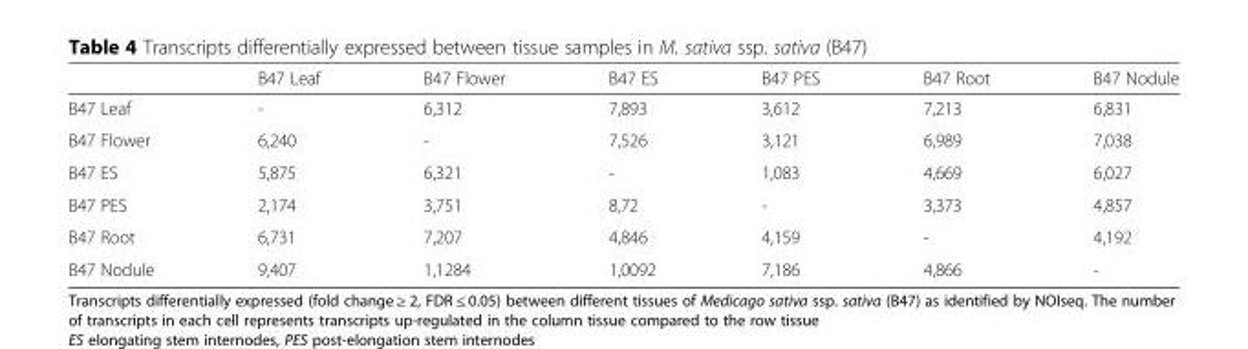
<table><thead><tr><td></td><td>B47 Leaf</td><td>B47 Flower</td><td>B47 ES</td><td>B47 PES</td><td>B47 Root</td><td>B47 Nodule</td></tr></thead><tbody><tr><td>B47 Leaf</td><td>-</td><td>6,312</td><td>7,893</td><td>3,612</td><td>7,213</td><td>6,831</td></tr><tr><td>B47 Flower</td><td>6,240</td><td>-</td><td>7,526</td><td>3,121</td><td>6,989</td><td>7,038</td></tr><tr><td>B47 ES</td><td>5,875</td><td>6,321</td><td>-</td><td>1,083</td><td>4,669</td><td>6,027</td></tr><tr><td>B47 PES</td><td>2,174</td><td>3,751</td><td>8,72</td><td>-</td><td>3,373</td><td>4,857</td></tr><tr><td>B47 Root</td><td>6,731</td><td>7,207</td><td>4,846</td><td>4,159</td><td>-</td><td>4,192</td></tr><tr><td>B47 Nodule</td><td>9,407</td><td>1,1284</td><td>1,0092</td><td>7,186</td><td>4,866</td><td>-</td></tr></tbody></table>